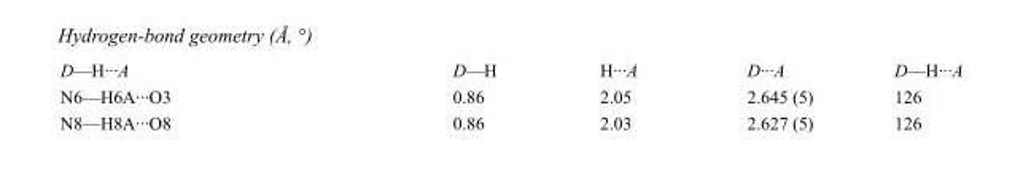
<table><tbody><tr><td>D—H···A</td><td>D—H</td><td>H···A</td><td>D···A</td><td>D—H···A</td></tr><tr><td>N6—H6A···O3</td><td>0.86</td><td>2.05</td><td>2.645 (5)</td><td>126</td></tr><tr><td>N8—H8A···O8</td><td>0.86</td><td>2.03</td><td>2.627 (5)</td><td>126</td></tr></tbody></table>